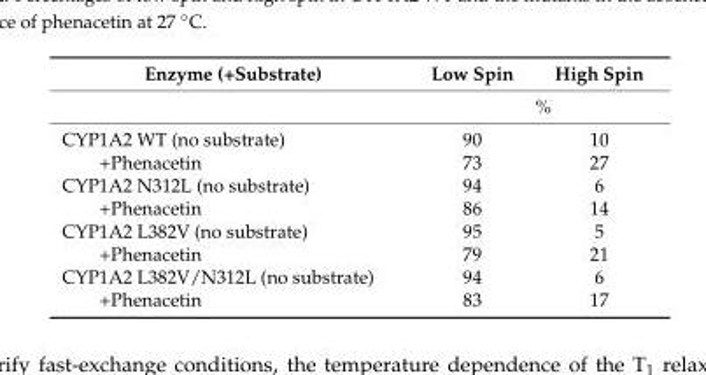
<table><thead><tr><td>Enzyme (+Substrate)</td><td>Low Spin</td><td>High Spin</td></tr></thead><tbody><tr><td></td><td colspan="2">%</td></tr><tr><td>CYP1A2 WT (no substrate)</td><td>90</td><td>10</td></tr><tr><td>+Phenacetin</td><td>73</td><td>27</td></tr><tr><td>CYP1A2 N312L (no substrate)</td><td>94</td><td>6</td></tr><tr><td>+Phenacetin</td><td>86</td><td>14</td></tr><tr><td>CYP1A2 L382V (no substrate)</td><td>95</td><td>5</td></tr><tr><td>+Phenacetin</td><td>79</td><td>21</td></tr><tr><td>CYP1A2 L382V/N312L (no substrate)</td><td>94</td><td>6</td></tr><tr><td>+Phenacetin</td><td>83</td><td>17</td></tr></tbody></table>